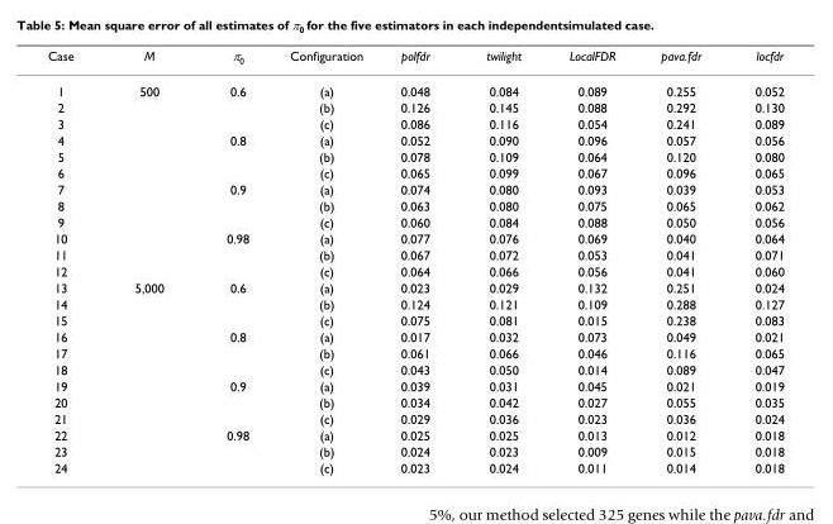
<table><thead><tr><td>Case</td><td>M</td><td>π<sub>0</sub></td><td>Configuration</td><td>polfdr</td><td>twilight</td><td>LocalFDR</td><td>pava.fdr</td><td>locfdr</td></tr></thead><tbody><tr><td>1</td><td>500</td><td>0.6</td><td>(a)</td><td>0.048</td><td>0.084</td><td>0.089</td><td>0.255</td><td>0.052</td></tr><tr><td>2</td><td></td><td></td><td>(b)</td><td>0.126</td><td>0.145</td><td>0.088</td><td>0.292</td><td>0.130</td></tr><tr><td>3</td><td></td><td></td><td>(c)</td><td>0.086</td><td>0.116</td><td>0.054</td><td>0.241</td><td>0.089</td></tr><tr><td>4</td><td></td><td>0.8</td><td>(a)</td><td>0.052</td><td>0.090</td><td>0.096</td><td>0.057</td><td>0.056</td></tr><tr><td>5</td><td></td><td></td><td>(b)</td><td>0.078</td><td>0.109</td><td>0.064</td><td>0.120</td><td>0.080</td></tr><tr><td>6</td><td></td><td></td><td>(c)</td><td>0.065</td><td>0.099</td><td>0.067</td><td>0.096</td><td>0.065</td></tr><tr><td>7</td><td></td><td>0.9</td><td>(a)</td><td>0.074</td><td>0.080</td><td>0.093</td><td>0.039</td><td>0.053</td></tr><tr><td>8</td><td></td><td></td><td>(b)</td><td>0.063</td><td>0.080</td><td>0.075</td><td>0.065</td><td>0.062</td></tr><tr><td>9</td><td></td><td></td><td>(c)</td><td>0.060</td><td>0.084</td><td>0.088</td><td>0.050</td><td>0.056</td></tr><tr><td>10</td><td></td><td>0.98</td><td>(a)</td><td>0.077</td><td>0.076</td><td>0.069</td><td>0.040</td><td>0.064</td></tr><tr><td>11</td><td></td><td></td><td>(b)</td><td>0.067</td><td>0.072</td><td>0.053</td><td>0.041</td><td>0.071</td></tr><tr><td>12</td><td></td><td></td><td>(c)</td><td>0.064</td><td>0.066</td><td>0.056</td><td>0.041</td><td>0.060</td></tr><tr><td>13</td><td>5,000</td><td>0.6</td><td>(a)</td><td>0.023</td><td>0.029</td><td>0.132</td><td>0.251</td><td>0.024</td></tr><tr><td>14</td><td></td><td></td><td>(b)</td><td>0.124</td><td>0.121</td><td>0.109</td><td>0.288</td><td>0.127</td></tr><tr><td>15</td><td></td><td></td><td>(c)</td><td>0.075</td><td>0.081</td><td>0.015</td><td>0.238</td><td>0.083</td></tr><tr><td>16</td><td></td><td>0.8</td><td>(a)</td><td>0.017</td><td>0.032</td><td>0.073</td><td>0.049</td><td>0.021</td></tr><tr><td>17</td><td></td><td></td><td>(b)</td><td>0.061</td><td>0.066</td><td>0.046</td><td>0.116</td><td>0.065</td></tr><tr><td>18</td><td></td><td></td><td>(c)</td><td>0.043</td><td>0.050</td><td>0.014</td><td>0.089</td><td>0.047</td></tr><tr><td>19</td><td></td><td>0.9</td><td>(a)</td><td>0.039</td><td>0.031</td><td>0.045</td><td>0.021</td><td>0.019</td></tr><tr><td>20</td><td></td><td></td><td>(b)</td><td>0.034</td><td>0.042</td><td>0.027</td><td>0.055</td><td>0.035</td></tr><tr><td>21</td><td></td><td></td><td>(c)</td><td>0.029</td><td>0.036</td><td>0.023</td><td>0.036</td><td>0.024</td></tr><tr><td>22</td><td></td><td>0.98</td><td>(a)</td><td>0.025</td><td>0.025</td><td>0.013</td><td>0.012</td><td>0.018</td></tr><tr><td>23</td><td></td><td></td><td>(b)</td><td>0.024</td><td>0.023</td><td>0.009</td><td>0.015</td><td>0.018</td></tr><tr><td>24</td><td></td><td></td><td>(c)</td><td>0.023</td><td>0.024</td><td>0.011</td><td>0.014</td><td>0.018</td></tr></tbody></table>